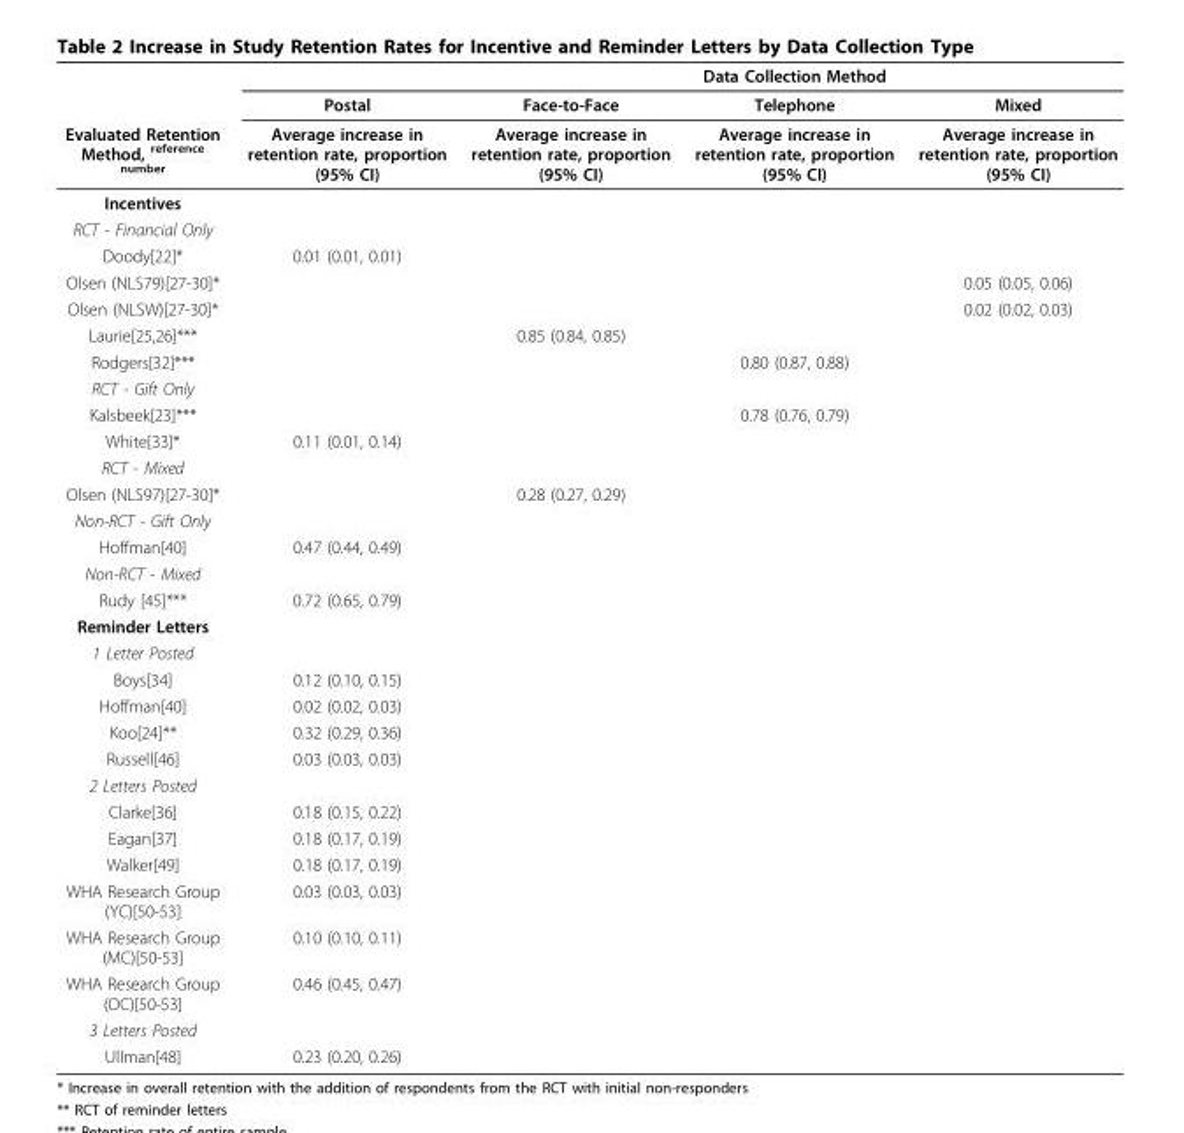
<table><thead><tr><td rowspan="3">Evaluated Retention Method, <sup>reference number</sup></td><td rowspan="3">Postal Average increase in retention rate, proportion (95% CI)</td><td colspan="3">Data Collection Method</td></tr><tr><td rowspan="2">Face-to-Face Average increase in retention rate, proportion (95% CI)</td><td rowspan="2">Telephone Average increase in retention rate, proportion (95% CI)</td><td rowspan="2">Mixed Average increase in retention rate, proportion (95% CI)</td></tr><tr></tr></thead><tbody><tr><td colspan="5">Incentives</td></tr><tr><td colspan="5">RCT - Financial Only</td></tr><tr><td>Doody[22]*</td><td>0.01 (0.01, 0.01)</td><td></td><td></td><td></td></tr><tr><td>Olsen (NLS79)[27-30]*</td><td></td><td></td><td></td><td>0.05 (0.05, 0.06)</td></tr><tr><td>Olsen (NLSW)[27-30]*</td><td></td><td></td><td></td><td>0.02 (0.02, 0.03)</td></tr><tr><td>Laurie[25,26]***</td><td></td><td>0.85 (0.84, 0.85)</td><td></td><td></td></tr><tr><td>Rodgers[32]***</td><td></td><td></td><td>0.80 (0.87, 0.88)</td><td></td></tr><tr><td colspan="5">RCT - Gift Only</td></tr><tr><td>Kalsbeek[23]***</td><td></td><td></td><td>0.78 (0.76, 0.79)</td><td></td></tr><tr><td>White[33]*</td><td>0.11 (0.01, 0.14)</td><td></td><td></td><td></td></tr><tr><td colspan="5">RCT - Mixed</td></tr><tr><td>Olsen (NLS97)[27-30]*</td><td></td><td>0.28 (0.27, 0.29)</td><td></td><td></td></tr><tr><td colspan="5">Non-RCT - Gift Only</td></tr><tr><td>Hoffman[40]</td><td>0.47 (0.44, 0.49)</td><td></td><td></td><td></td></tr><tr><td colspan="5">Non-RCT - Mixed</td></tr><tr><td>Rudy [45]***</td><td>0.72 (0.65, 0.79)</td><td></td><td></td><td></td></tr><tr><td colspan="5">Reminder Letters</td></tr><tr><td colspan="5">1 Letter Posted</td></tr><tr><td>Boys[34]</td><td>0.12 (0.10, 0.15)</td><td></td><td></td><td></td></tr><tr><td>Hoffman[40]</td><td>0.02 (0.02, 0.03)</td><td></td><td></td><td></td></tr><tr><td>Koo[24]**</td><td>0.32 (0.29, 0.36)</td><td></td><td></td><td></td></tr><tr><td>Russell[46]</td><td>0.03 (0.03, 0.03)</td><td></td><td></td><td></td></tr><tr><td colspan="5">2 Letters Posted</td></tr><tr><td>Clarke[36]</td><td>0.18 (0.15, 0.22)</td><td></td><td></td><td></td></tr><tr><td>Eagan[37]</td><td>0.18 (0.17, 0.19)</td><td></td><td></td><td></td></tr><tr><td>Walker[49]</td><td>0.18 (0.17, 0.19)</td><td></td><td></td><td></td></tr><tr><td>WHA Research Group (YC)[50-53]</td><td>0.03 (0.03, 0.03)</td><td></td><td></td><td></td></tr><tr><td>WHA Research Group (MC)[50-53]</td><td>0.10 (0.10, 0.11)</td><td></td><td></td><td></td></tr><tr><td>WHA Research Group (OC)[50-53]</td><td>0.46 (0.45, 0.47)</td><td></td><td></td><td></td></tr><tr><td colspan="5">3 Letters Posted</td></tr><tr><td>Ullman[48]</td><td>0.23 (0.20, 0.26)</td><td></td><td></td><td></td></tr></tbody></table>